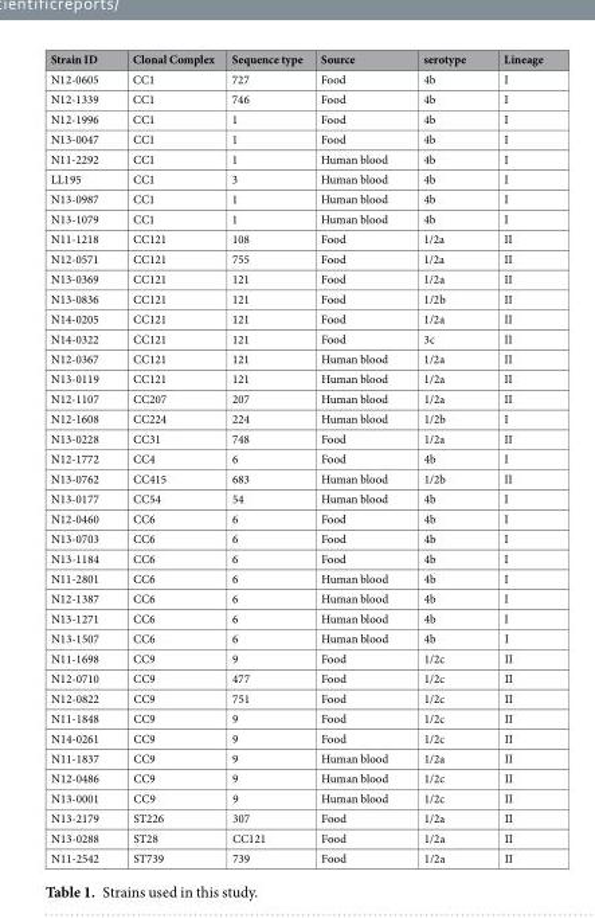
<table><thead><tr><td>Strain ID</td><td>Clonal Complex</td><td>Sequence type</td><td>Source</td><td>serotype</td><td>Lineage</td></tr></thead><tbody><tr><td>N12-0605</td><td>CC1</td><td>727</td><td>Food</td><td>4b</td><td>I</td></tr><tr><td>N12-1339</td><td>CC1</td><td>746</td><td>Food</td><td>4b</td><td>I</td></tr><tr><td>N12-1996</td><td>CC1</td><td>1</td><td>Food</td><td>4b</td><td>I</td></tr><tr><td>N13-0047</td><td>CC1</td><td>1</td><td>Food</td><td>4b</td><td>I</td></tr><tr><td>N11-2292</td><td>CC1</td><td>1</td><td>Human blood</td><td>4b</td><td>I</td></tr><tr><td>LL195</td><td>CC1</td><td>3</td><td>Human blood</td><td>4b</td><td>I</td></tr><tr><td>N13-0987</td><td>CC1</td><td>1</td><td>Human blood</td><td>4b</td><td>I</td></tr><tr><td>N13-1079</td><td>CC1</td><td>1</td><td>Human blood</td><td>4b</td><td>I</td></tr><tr><td>N11-1218</td><td>CC121</td><td>108</td><td>Food</td><td>1/2a</td><td>II</td></tr><tr><td>N12-0571</td><td>CC121</td><td>755</td><td>Food</td><td>1/2a</td><td>II</td></tr><tr><td>N13-0369</td><td>CC121</td><td>121</td><td>Food</td><td>1/2a</td><td>II</td></tr><tr><td>N13-0836</td><td>CC121</td><td>121</td><td>Food</td><td>1/2b</td><td>II</td></tr><tr><td>N14-0205</td><td>CC121</td><td>121</td><td>Food</td><td>1/2a</td><td>II</td></tr><tr><td>N14-0322</td><td>CC121</td><td>121</td><td>Food</td><td>3c</td><td>II</td></tr><tr><td>N12-0367</td><td>CC121</td><td>121</td><td>Human blood</td><td>1/2a</td><td>II</td></tr><tr><td>N13-0119</td><td>CC121</td><td>121</td><td>Human blood</td><td>1/2a</td><td>II</td></tr><tr><td>N12-1107</td><td>CC207</td><td>207</td><td>Human blood</td><td>1/2a</td><td>II</td></tr><tr><td>N12-1608</td><td>CC224</td><td>224</td><td>Human blood</td><td>1/2b</td><td>I</td></tr><tr><td>N13-0228</td><td>CC31</td><td>748</td><td>Food</td><td>1/2a</td><td>II</td></tr><tr><td>N12-1772</td><td>CC4</td><td>6</td><td>Food</td><td>4b</td><td>I</td></tr><tr><td>N13-0762</td><td>CC415</td><td>683</td><td>Human blood</td><td>1/2b</td><td>II</td></tr><tr><td>N13-0177</td><td>CC54</td><td>54</td><td>Human blood</td><td>4b</td><td>I</td></tr><tr><td>N12-0460</td><td>CC6</td><td>6</td><td>Food</td><td>4b</td><td>I</td></tr><tr><td>N13-0703</td><td>CC6</td><td>6</td><td>Food</td><td>4b</td><td>I</td></tr><tr><td>N13-1184</td><td>CC6</td><td>6</td><td>Food</td><td>4b</td><td>I</td></tr><tr><td>N11-2801</td><td>CC6</td><td>6</td><td>Human blood</td><td>4b</td><td>I</td></tr><tr><td>N12-1387</td><td>CC6</td><td>6</td><td>Human blood</td><td>4b</td><td>I</td></tr><tr><td>N13-1271</td><td>CC6</td><td>6</td><td>Human blood</td><td>4b</td><td>I</td></tr><tr><td>N13-1507</td><td>CC6</td><td>6</td><td>Human blood</td><td>4b</td><td>I</td></tr><tr><td>N11-1698</td><td>CC9</td><td>9</td><td>Food</td><td>1/2c</td><td>II</td></tr><tr><td>N12-0710</td><td>CC9</td><td>477</td><td>Food</td><td>1/2c</td><td>II</td></tr><tr><td>N12-0822</td><td>CC9</td><td>751</td><td>Food</td><td>1/2c</td><td>II</td></tr><tr><td>N11-1848</td><td>CC9</td><td>9</td><td>Food</td><td>1/2c</td><td>II</td></tr><tr><td>N14-0261</td><td>CC9</td><td>9</td><td>Food</td><td>1/2c</td><td>II</td></tr><tr><td>N11-1837</td><td>CC9</td><td>9</td><td>Human blood</td><td>1/2a</td><td>II</td></tr><tr><td>N12-0486</td><td>CC9</td><td>9</td><td>Human blood</td><td>1/2c</td><td>II</td></tr><tr><td>N13-0001</td><td>CC9</td><td>9</td><td>Human blood</td><td>1/2c</td><td>II</td></tr><tr><td>N13-2179</td><td>ST226</td><td>307</td><td>Food</td><td>1/2a</td><td>II</td></tr><tr><td>N13-0288</td><td>ST28</td><td>CC121</td><td>Food</td><td>1/2a</td><td>II</td></tr><tr><td>N11-2542</td><td>ST739</td><td>739</td><td>Food</td><td>1/2a</td><td>II</td></tr></tbody></table>